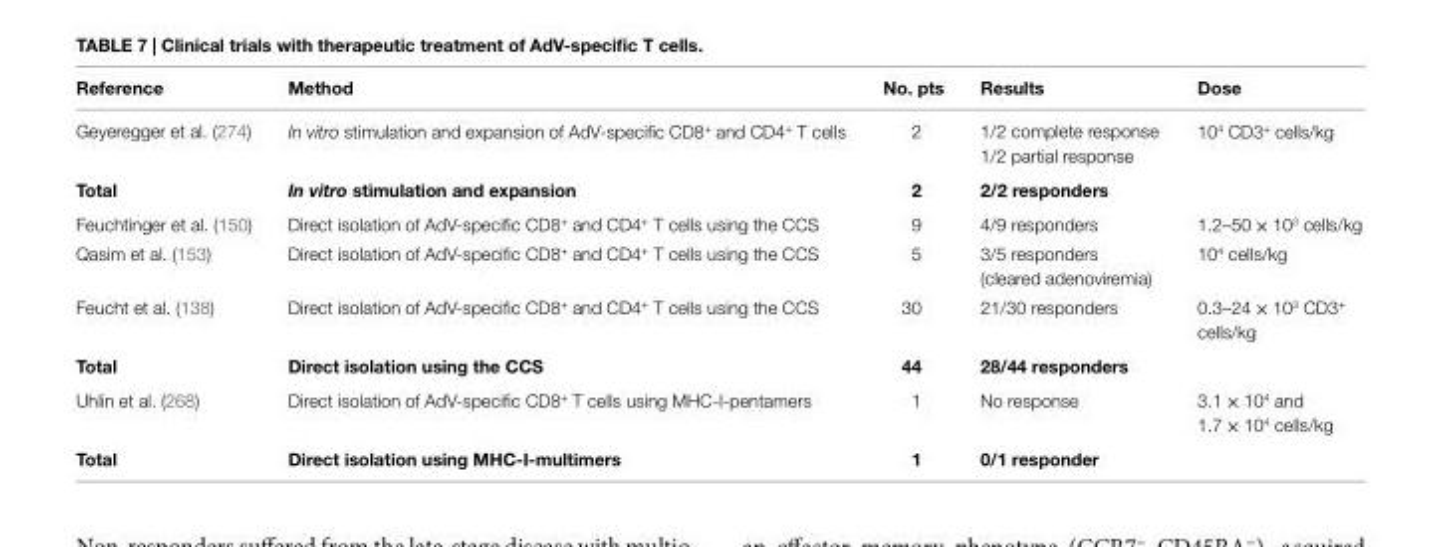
<table><thead><tr><td>Reference</td><td>Method</td><td>No. pts</td><td>Results</td><td>Dose</td></tr></thead><tbody><tr><td rowspan="2">Geyeregger et al. (274)</td><td>In vitro stimulation and expansion of AdV-specific CD8<sup>+</sup> and CD4<sup>+</sup> T cells</td><td>2</td><td>1/2 complete response</td><td>10<sup>4</sup> CD3<sup>+</sup> cells/kg</td></tr><tr><td></td><td></td><td>1/2 partial response</td><td></td></tr><tr><td>Total</td><td>In vitro stimulation and expansion</td><td>2</td><td>2/2 responders</td><td></td></tr><tr><td>Feuchtinger et al. (150)</td><td>Direct isolation of AdV-specific CD8<sup>+</sup> and CD4<sup>+</sup> T cells using the CCS</td><td>9</td><td>4/9 responders</td><td>1.2–50 × 10<sup>3</sup> cells/kg</td></tr><tr><td>Qasim et al. (153)</td><td>Direct isolation of AdV-specific CD8<sup>+</sup> and CD4<sup>+</sup> T cells using the CCS</td><td>5</td><td>3/5 responders (cleared adenoviremia)</td><td>10<sup>4</sup> cells/kg</td></tr><tr><td>Feucht et al. (138)</td><td>Direct isolation of AdV-specific CD8<sup>+</sup> and CD4<sup>+</sup> T cells using the CCS</td><td>30</td><td>21/30 responders</td><td>0.3–24 × 10<sup>3</sup> CD3<sup>+</sup> cells/kg</td></tr><tr><td>Total</td><td>Direct isolation using the CCS</td><td>44</td><td>28/44 responders</td><td></td></tr><tr><td>Uhlin et al. (268)</td><td>Direct isolation of AdV-specific CD8<sup>+</sup> T cells using MHC-I-pentamers</td><td>1</td><td>No response</td><td>3.1 × 10<sup>4</sup> and 1.7 × 10<sup>4</sup> cells/kg</td></tr><tr><td>Total</td><td>Direct isolation using MHC-i-multimers</td><td>1</td><td>0/1 responder</td><td></td></tr></tbody></table>